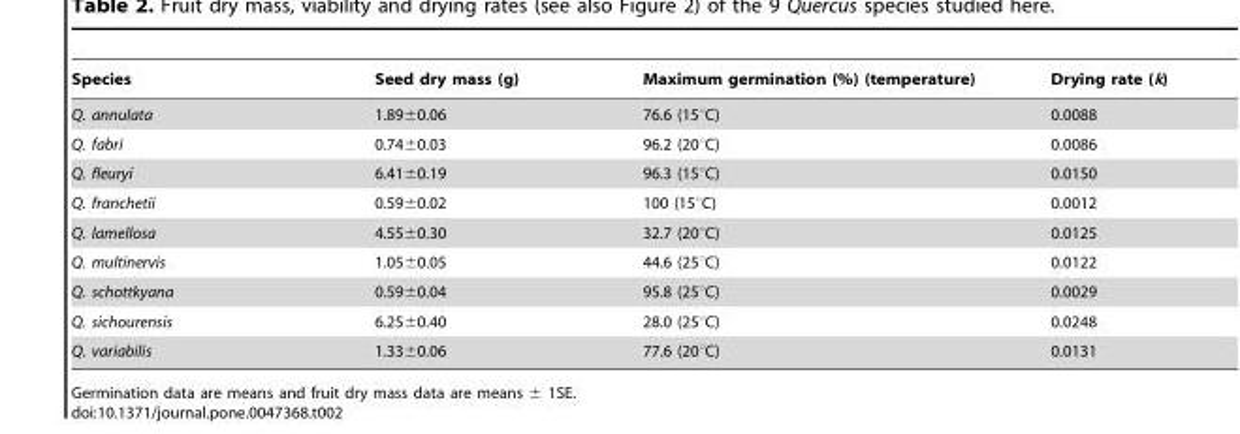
<table><thead><tr><td>Species</td><td>Seed dry mass (g)</td><td>Maximum germination (%) (temperature)</td><td>Drying rate (k)</td></tr></thead><tbody><tr><td>Q. annulata</td><td>1.89±0.06</td><td>76.6 (15°C)</td><td>0.0088</td></tr><tr><td>Q. fabri</td><td>0.74±0.03</td><td>96.2 (20°C)</td><td>0.0086</td></tr><tr><td>Q. fleuryi</td><td>6.41±0.19</td><td>96.3 (15°C)</td><td>0.0150</td></tr><tr><td>Q. franchetii</td><td>0.59±0.02</td><td>100 (15°C)</td><td>0.0012</td></tr><tr><td>Q. lamellosa</td><td>4.55±0.30</td><td>32.7 (20°C)</td><td>0.0125</td></tr><tr><td>Q. multinervis</td><td>1.05±0.05</td><td>44.6 (25°C)</td><td>0.0122</td></tr><tr><td>Q. schottkyana</td><td>0.59±0.04</td><td>95.8 (25°C)</td><td>0.0029</td></tr><tr><td>Q. sichourensis</td><td>6.25±0.40</td><td>28.0 (25°C)</td><td>0.0248</td></tr><tr><td>Q. variabilis</td><td>1.33±0.06</td><td>77.6 (20°C)</td><td>0.0131</td></tr></tbody></table>